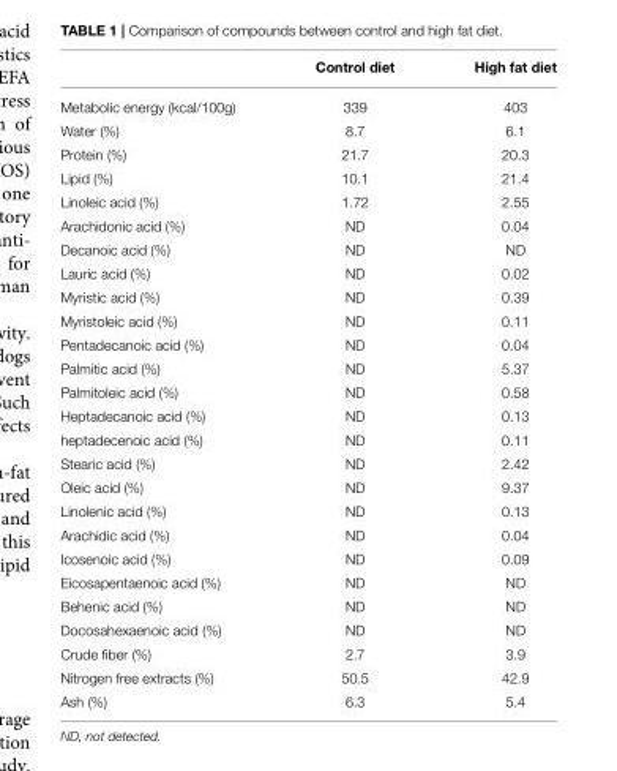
<table><thead><tr><td></td><td>Control diet</td><td>High fat diet</td></tr></thead><tbody><tr><td>Metabolic energy (kcal/100g)</td><td>339</td><td>403</td></tr><tr><td>Water (%)</td><td>8.7</td><td>6.1</td></tr><tr><td>Protein (%)</td><td>21.7</td><td>20.3</td></tr><tr><td>Lipid (%)</td><td>10.1</td><td>21.4</td></tr><tr><td>Linoleic acid (%)</td><td>1.72</td><td>2.55</td></tr><tr><td>Arachidonic acid (%)</td><td>ND</td><td>0.04</td></tr><tr><td>Decanoic acid (%)</td><td>ND</td><td>ND</td></tr><tr><td>Lauric acid (%)</td><td>ND</td><td>0.02</td></tr><tr><td>Myristic acid (%)</td><td>ND</td><td>0.39</td></tr><tr><td>Myristoleic acid (%)</td><td>ND</td><td>0.11</td></tr><tr><td>Pentadecanoic acid (%)</td><td>ND</td><td>0.04</td></tr><tr><td>Palmitic acid (%)</td><td>ND</td><td>5.37</td></tr><tr><td>Palmitoleic acid (%)</td><td>ND</td><td>0.58</td></tr><tr><td>Heptadecanoic acid (%)</td><td>ND</td><td>0.13</td></tr><tr><td>heptadecenoic acid (%)</td><td>ND</td><td>0.11</td></tr><tr><td>Stearic acid (%)</td><td>ND</td><td>2.42</td></tr><tr><td>Oleic acid (%)</td><td>ND</td><td>9.37</td></tr><tr><td>Linolenic acid (%)</td><td>ND</td><td>0.13</td></tr><tr><td>Arachidic acid (%)</td><td>ND</td><td>0.04</td></tr><tr><td>Icosenoic acid (%)</td><td>ND</td><td>0.09</td></tr><tr><td>Eicosapentaenoic acid (%)</td><td>ND</td><td>ND</td></tr><tr><td>Behenic acid (%)</td><td>ND</td><td>ND</td></tr><tr><td>Docosahexaenoic acid (%)</td><td>ND</td><td>ND</td></tr><tr><td>Crude fiber (%)</td><td>2.7</td><td>3.9</td></tr><tr><td>Nitrogen free extracts (%)</td><td>50.5</td><td>42.9</td></tr><tr><td>Ash (%)</td><td>6.3</td><td>5.4</td></tr></tbody></table>